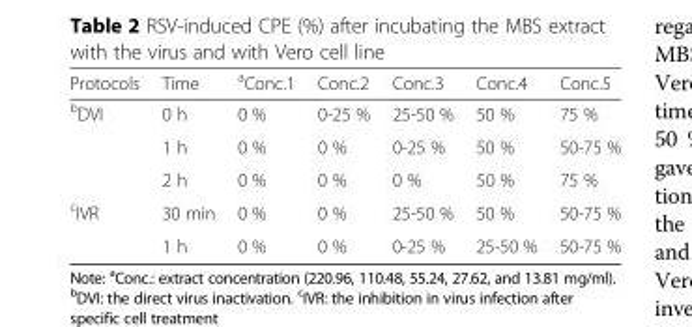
<table><thead><tr><td>Protocols</td><td>Time</td><td><sup>a</sup>Conc.1</td><td>Conc.2</td><td>Conc.3</td><td>Conc.4</td><td>Conc.5</td></tr></thead><tbody><tr><td rowspan="3"><sup>b</sup>DVI</td><td>0 h</td><td>0 %</td><td>0-25 %</td><td>25-50 %</td><td>50 %</td><td>75 %</td></tr><tr><td>1 h</td><td>0 %</td><td>0 %</td><td>0-25 %</td><td>50 %</td><td>50-75 %</td></tr><tr><td>2 h</td><td>0 %</td><td>0 %</td><td>0 %</td><td>50 %</td><td>75 %</td></tr><tr><td rowspan="2"><sup>c</sup>IVR</td><td>30 min</td><td>0 %</td><td>0 %</td><td>25-50 %</td><td>50 %</td><td>50-75 %</td></tr><tr><td>1 h</td><td>0 %</td><td>0 %</td><td>0-25 %</td><td>25-50 %</td><td>50-75 %</td></tr></tbody></table>